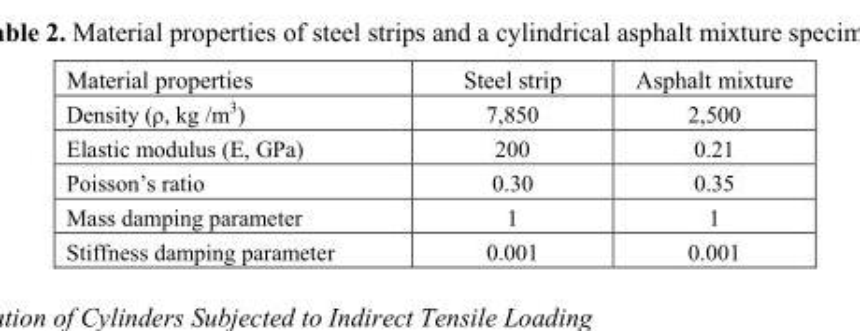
<table><thead><tr><td>Material properties</td><td>Steel strip</td><td>Asphalt mixture</td></tr></thead><tbody><tr><td>Density (ρ, kg /m<sup>3</sup>)</td><td>7,850</td><td>2,500</td></tr><tr><td>Elastic modulus (E, GPa)</td><td>200</td><td>0.21</td></tr><tr><td>Poisson’s ratio</td><td>0.30</td><td>0.35</td></tr><tr><td>Mass damping parameter</td><td>1</td><td>1</td></tr><tr><td>Stiffness damping parameter</td><td>0.001</td><td>0.001</td></tr></tbody></table>